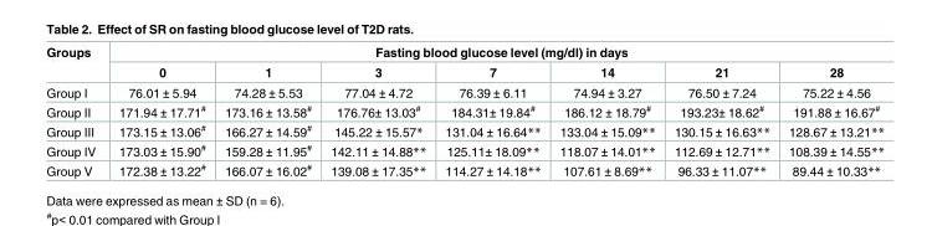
<table><thead><tr><td rowspan="2">Groups</td><td colspan="7">Fasting blood glucose level (mg/dl) in days</td></tr><tr><td>0</td><td>1</td><td>3</td><td>7</td><td>14</td><td>21</td><td>28</td></tr></thead><tbody><tr><td>Group I</td><td>76.01 ± 5.94</td><td>74.28 ± 5.53</td><td>77.04 ± 4.72</td><td>76.39 ± 6.11</td><td>74.94 ± 3.27</td><td>76.50 ± 7.24</td><td>75.22 ± 4.56</td></tr><tr><td>Group II</td><td>171.94 ± 17.71<sup>#</sup></td><td>173.16 ± 13.58<sup>#</sup></td><td>176.76± 13.03<sup>#</sup></td><td>184.31± 19.84<sup>#</sup></td><td>186.12 ± 18.79<sup>#</sup></td><td>193.23± 18.62<sup>#</sup></td><td>191.88 ± 16.67<sup>#</sup></td></tr><tr><td>Group III</td><td>173.15 ± 13.06<sup>#</sup></td><td>166.27 ± 14.59<sup>#</sup></td><td>145.22 ± 15.57*</td><td>131.04 ± 16.64**</td><td>133.04 ± 15.09**</td><td>130.15 ± 16.63**</td><td>128.67 ± 13.21**</td></tr><tr><td>Group IV</td><td>173.03 ± 15.90<sup>#</sup></td><td>159.28 ± 11.95<sup>#</sup></td><td>142.11 ± 14.88**</td><td>125.11± 18.09**</td><td>118.07 ± 14.01**</td><td>112.69 ± 12.71**</td><td>108.39 ± 14.55**</td></tr><tr><td>Group V</td><td>172.38 ± 13.22<sup>#</sup></td><td>166.07 ± 16.02<sup>#</sup></td><td>139.08 ± 17.35**</td><td>114.27 ± 14.18**</td><td>107.61 ± 8.69**</td><td>96.33 ± 11.07**</td><td>89.44 ± 10.33**</td></tr></tbody></table>